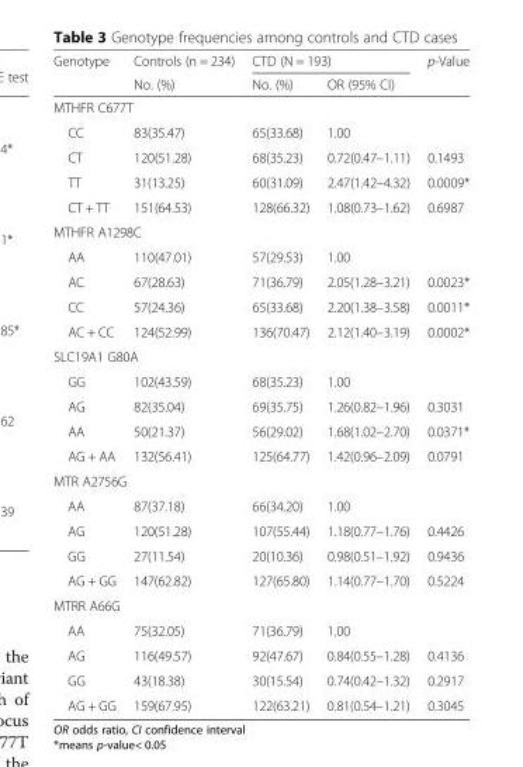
<table><thead><tr><td rowspan="2">Genotype</td><td rowspan="2">Controls (n = 234) No. (%)</td><td colspan="2">CTD (N = 193)</td><td rowspan="2">p-Value</td></tr><tr><td>No. (%)</td><td>OR (95% CI)</td></tr></thead><tbody><tr><td colspan="5">MTHFR C677T</td></tr><tr><td>CC</td><td>83(35.47)</td><td>65(33.68)</td><td>1.00</td><td></td></tr><tr><td>CT</td><td>120(51.28)</td><td>68(35.23)</td><td>0.72(0.47–1.11)</td><td>0.1493</td></tr><tr><td>TT</td><td>31(13.25)</td><td>60(31.09)</td><td>2.47(1.42–4.32)</td><td>0.0009*</td></tr><tr><td>CT + TT</td><td>151(64.53)</td><td>128(66.32)</td><td>1.08(0.73–1.62)</td><td>0.6987</td></tr><tr><td colspan="5">MTHFR A1298C</td></tr><tr><td>AA</td><td>110(47.01)</td><td>57(29.53)</td><td>1.00</td><td></td></tr><tr><td>AC</td><td>67(28.63)</td><td>71(36.79)</td><td>2.05(1.28–3.21)</td><td>0.0023*</td></tr><tr><td>CC</td><td>57(24.36)</td><td>65(33.68)</td><td>2.20(1.38–3.58)</td><td>0.0011*</td></tr><tr><td>AC + CC</td><td>124(52.99)</td><td>136(70.47)</td><td>2.12(1.40–3.19)</td><td>0.0002*</td></tr><tr><td colspan="5">SLC19A1 G80A</td></tr><tr><td>GG</td><td>102(43.59)</td><td>68(35.23)</td><td>1.00</td><td></td></tr><tr><td>AG</td><td>82(35.04)</td><td>69(35.75)</td><td>1.26(0.82–1.96)</td><td>0.3031</td></tr><tr><td>AA</td><td>50(21.37)</td><td>56(29.02)</td><td>1.68(1.02–2.70)</td><td>0.0371*</td></tr><tr><td>AG + AA</td><td>132(56.41)</td><td>125(64.77)</td><td>1.42(0.96–2.09)</td><td>0.0791</td></tr><tr><td colspan="5">MTR A2756G</td></tr><tr><td>AA</td><td>87(37.18)</td><td>66(34.20)</td><td>1.00</td><td></td></tr><tr><td>AG</td><td>120(51.28)</td><td>107(55.44)</td><td>1.18(0.77–1.76)</td><td>0.4426</td></tr><tr><td>GG</td><td>27(11.54)</td><td>20(10.36)</td><td>0.98(0.51–1.92)</td><td>0.9436</td></tr><tr><td>AG + GG</td><td>147(62.82)</td><td>127(65.80)</td><td>1.14(0.77–1.70)</td><td>0.5224</td></tr><tr><td colspan="5">MTRR A66G</td></tr><tr><td>AA</td><td>75(32.05)</td><td>71(36.79)</td><td>1.00</td><td></td></tr><tr><td>AG</td><td>116(49.57)</td><td>92(47.67)</td><td>0.84(0.55–1.28)</td><td>0.4136</td></tr><tr><td>GG</td><td>43(18.38)</td><td>30(15.54)</td><td>0.74(0.42–1.32)</td><td>0.2917</td></tr><tr><td>AG + GG</td><td>159(67.95)</td><td>122(63.21)</td><td>0.81(0.54–1.21)</td><td>0.3045</td></tr></tbody></table>